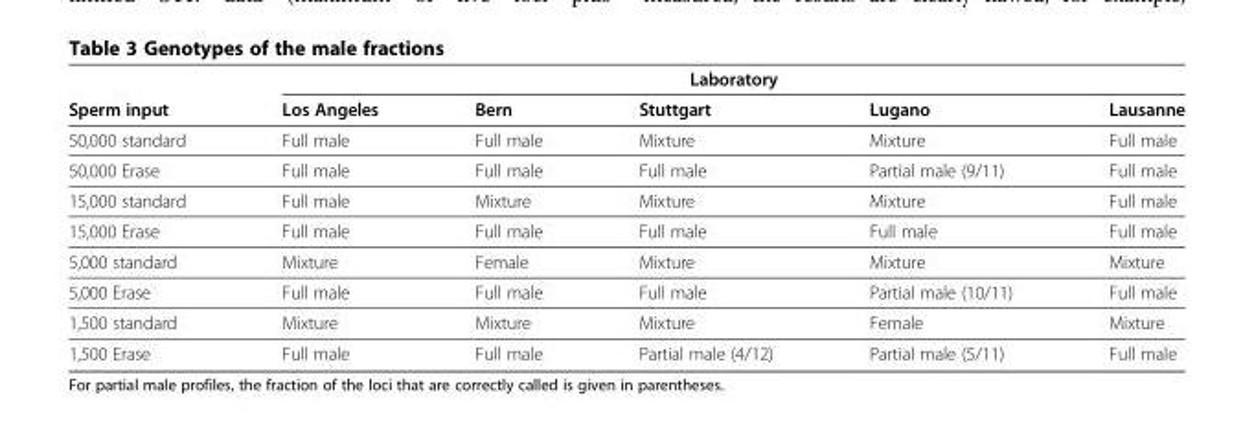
<table><thead><tr><td rowspan="2">Sperm input</td><td colspan="5">Laboratory</td></tr><tr><td>Los Angeles</td><td>Bern</td><td>Stuttgart</td><td>Lugano</td><td>Lausanne</td></tr></thead><tbody><tr><td>50,000 standard</td><td>Full male</td><td>Full male</td><td>Mixture</td><td>Mixture</td><td>Full male</td></tr><tr><td>50,000 Erase</td><td>Full male</td><td>Full male</td><td>Full male</td><td>Partial male (9/11)</td><td>Full male</td></tr><tr><td>15,000 standard</td><td>Full male</td><td>Mixture</td><td>Mixture</td><td>Mixture</td><td>Full male</td></tr><tr><td>15,000 Erase</td><td>Full male</td><td>Full male</td><td>Full male</td><td>Full male</td><td>Full male</td></tr><tr><td>5,000 standard</td><td>Mixture</td><td>Female</td><td>Mixture</td><td>Mixture</td><td>Mixture</td></tr><tr><td>5,000 Erase</td><td>Full male</td><td>Full male</td><td>Full male</td><td>Partial male (10/11)</td><td>Full male</td></tr><tr><td>1,500 standard</td><td>Mixture</td><td>Mixture</td><td>Mixture</td><td>Female</td><td>Mixture</td></tr><tr><td>1,500 Erase</td><td>Full male</td><td>Full male</td><td>Partial male (4/12)</td><td>Partial male (5/11)</td><td>Full male</td></tr></tbody></table>